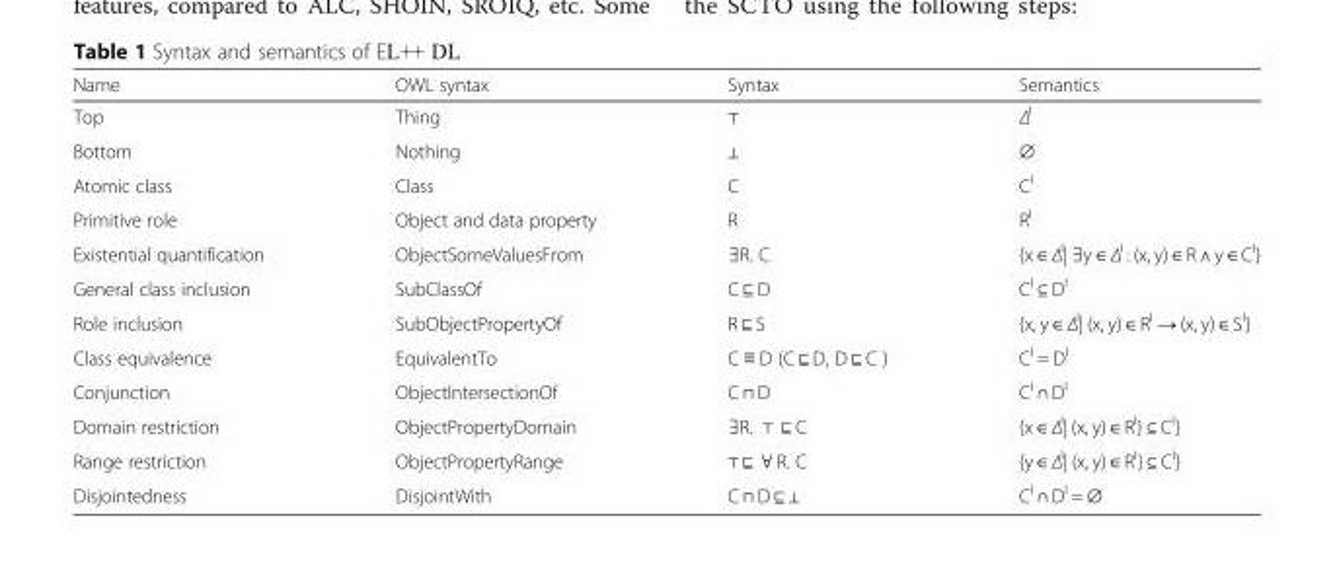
<table><thead><tr><td>Name</td><td>OWL syntax</td><td>Syntax</td><td>Semantics</td></tr></thead><tbody><tr><td>Top</td><td>Thing</td><td>⊤</td><td>ΔI</td></tr><tr><td>Bottom</td><td>Nothing</td><td>⊥</td><td>∅</td></tr><tr><td>Atomic class</td><td>Class</td><td>C</td><td>C<sup>I</sup></td></tr><tr><td>Primitive role</td><td>Object and data property</td><td>R</td><td>R<sup>I</sup></td></tr><tr><td>Existential quantification</td><td>ObjectSomeValuesFrom</td><td>∃R. C</td><td>{x ∈ ΔI| ∃y ∈ ΔI : (x, y) ∈ R ⋀ y ∈ CI}</td></tr><tr><td>General class inclusion</td><td>SubClassOf</td><td>C ⊑ D</td><td>C<sup>I</sup> ⊆ D<sup>I</sup></td></tr><tr><td>Role inclusion</td><td>SubObjectPropertyOf</td><td>R ⊑ S</td><td>{x, y ∈ ΔI| (x, y) ∈ RI → (x, y) ∈ SI}</td></tr><tr><td>Class equivalence</td><td>EquivalentTo</td><td>C ≡ D (C ⊑ D, D ⊑ C )</td><td>C<sup>I</sup> = D<sup>I</sup></td></tr><tr><td>Conjunction</td><td>ObjectIntersectionOf</td><td>C ⊓ D</td><td>C<sup>I</sup> ∩ D<sup>I</sup></td></tr><tr><td>Domain restriction</td><td>ObjectPropertyDomain</td><td>∃R. ⊤ ⊑ C</td><td>{x ∈ ΔI| (x, y) ∈ RI} ⊆ CI}</td></tr><tr><td>Range restriction</td><td>ObjectPropertyRange</td><td>⊤ ⊑ ∀ R. C</td><td>{y ∈ ΔI| (x, y) ∈ RI} ⊆ CI}</td></tr><tr><td>Disjointedness</td><td>DisjointWith</td><td>C ⊓ D ⊑ ⊥</td><td>C<sup>I</sup> ∩ D<sup>I</sup> = ∅</td></tr></tbody></table>